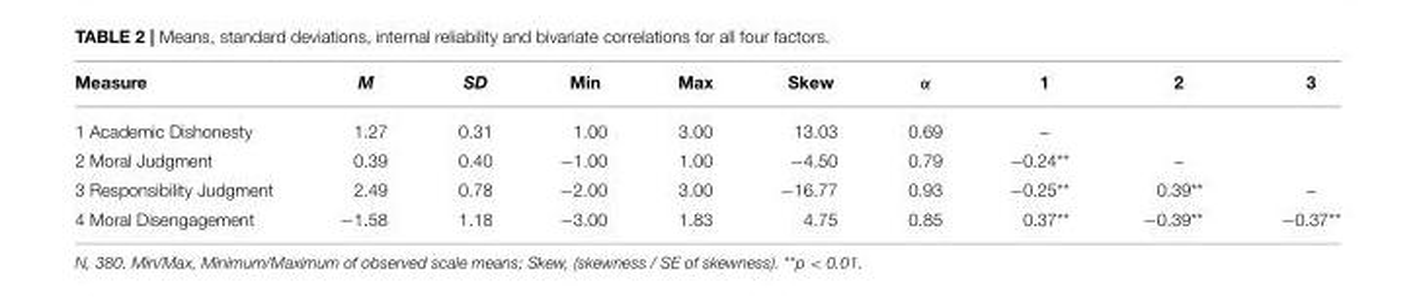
<table><thead><tr><td>Measure</td><td>M</td><td>SD</td><td>Min</td><td>Max</td><td>Skew</td><td>α</td><td>1</td><td>2</td><td>3</td></tr></thead><tbody><tr><td>1 Academic Dishonesty</td><td>1.27</td><td>0.31</td><td>1.00</td><td>3.00</td><td>13.03</td><td>0.69</td><td>–</td><td></td><td></td></tr><tr><td>2 Moral Judgment</td><td>0.39</td><td>0.40</td><td>−1.00</td><td>1.00</td><td>−4.50</td><td>0.79</td><td>−0.24**</td><td>–</td><td></td></tr><tr><td>3 Responsibility Judgment</td><td>2.49</td><td>0.78</td><td>−2.00</td><td>3.00</td><td>−16.77</td><td>0.93</td><td>−0.25**</td><td>0.39**</td><td>–</td></tr><tr><td>4 Moral Disengagement</td><td>−1.58</td><td>1.18</td><td>−3.00</td><td>1.83</td><td>4.75</td><td>0.85</td><td>0.37**</td><td>−0.39**</td><td>−0.37**</td></tr></tbody></table>